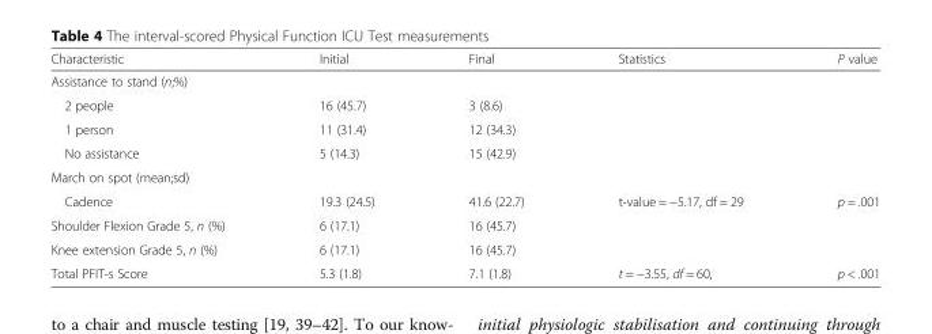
<table><thead><tr><td>Characteristic</td><td>Initial</td><td>Final</td><td>Statistics</td><td>P value</td></tr></thead><tbody><tr><td colspan="5">Assistance to stand (n;%)</td></tr><tr><td>2 people</td><td>16 (45.7)</td><td>3 (8.6)</td><td></td><td></td></tr><tr><td>1 person</td><td>11 (31.4)</td><td>12 (34.3)</td><td></td><td></td></tr><tr><td>No assistance</td><td>5 (14.3)</td><td>15 (42.9)</td><td></td><td></td></tr><tr><td colspan="5">March on spot (mean;sd)</td></tr><tr><td>Cadence</td><td>19.3 (24.5)</td><td>41.6 (22.7)</td><td>t-value = −5.17, df = 29</td><td>p = .001</td></tr><tr><td>Shoulder Flexion Grade 5, n (%)</td><td>6 (17.1)</td><td>16 (45.7)</td><td></td><td></td></tr><tr><td>Knee extension Grade 5, n (%)</td><td>6 (17.1)</td><td>16 (45.7)</td><td></td><td></td></tr><tr><td>Total PFIT-s Score</td><td>5.3 (1.8)</td><td>7.1 (1.8)</td><td>t = −3.55, df = 60,</td><td>p &lt; .001</td></tr></tbody></table>